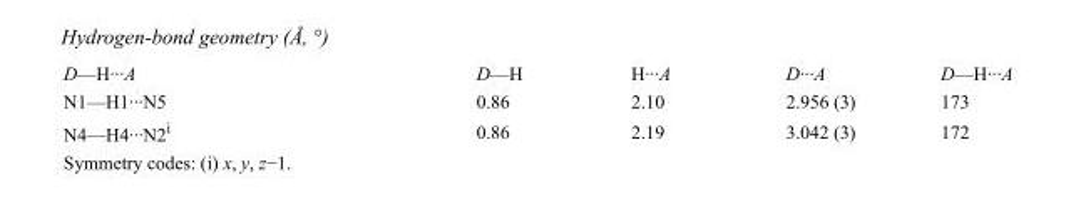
<table><tbody><tr><td>D—H···A</td><td>D—H</td><td>H···A</td><td>D···A</td><td>D—H···A</td></tr><tr><td>N1—H1···N5</td><td>0.86</td><td>2.10</td><td>2.956 (3)</td><td>173</td></tr><tr><td>N4—H4···N2<sup>i</sup></td><td>0.86</td><td>2.19</td><td>3.042 (3)</td><td>172</td></tr></tbody></table>